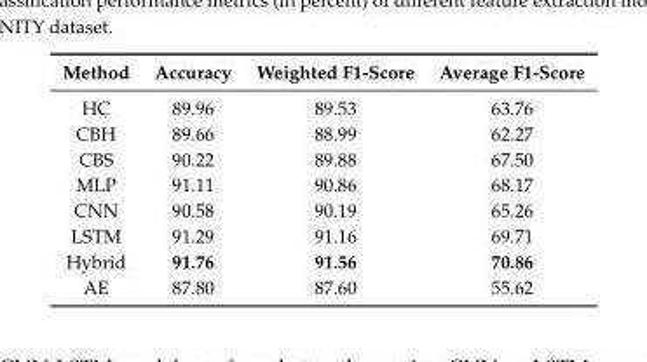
<table><thead><tr><td>Method</td><td>Accuracy</td><td>Weighted F1-Score</td><td>Average F1-Score</td></tr></thead><tbody><tr><td>HC</td><td>89.96</td><td>89.53</td><td>63.76</td></tr><tr><td>CBH</td><td>89.66</td><td>88.99</td><td>62.27</td></tr><tr><td>CBS</td><td>90.22</td><td>89.88</td><td>67.50</td></tr><tr><td>MLP</td><td>91.11</td><td>90.86</td><td>68.17</td></tr><tr><td>CNN</td><td>90.58</td><td>90.19</td><td>65.26</td></tr><tr><td>LSTM</td><td>91.29</td><td>91.16</td><td>69.71</td></tr><tr><td>Hybrid</td><td>91.76</td><td>91.56</td><td>70.86</td></tr><tr><td>AE</td><td>87.80</td><td>87.60</td><td>55.62</td></tr></tbody></table>